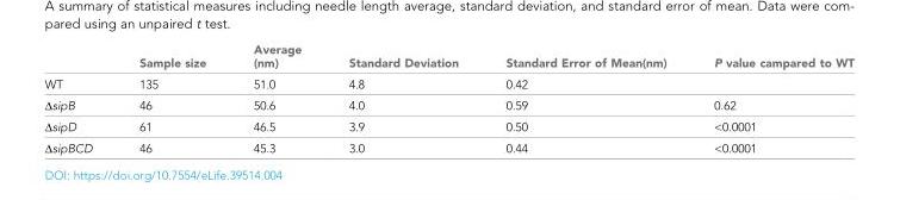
<table><thead><tr><td></td><td>Sample size</td><td>Average (nm)</td><td>Standard Deviation</td><td>Standard Error of Mean(nm)</td><td>P value campared to WT</td></tr></thead><tbody><tr><td>WT</td><td>135</td><td>51.0</td><td>4.8</td><td>0.42</td><td></td></tr><tr><td>∆sipB</td><td>46</td><td>50.6</td><td>4.0</td><td>0.59</td><td>0.62</td></tr><tr><td>∆sipD</td><td>61</td><td>46.5</td><td>3.9</td><td>0.50</td><td>&lt;0.0001</td></tr><tr><td>∆sipBCD</td><td>46</td><td>45.3</td><td>3.0</td><td>0.44</td><td>&lt;0.0001</td></tr></tbody></table>